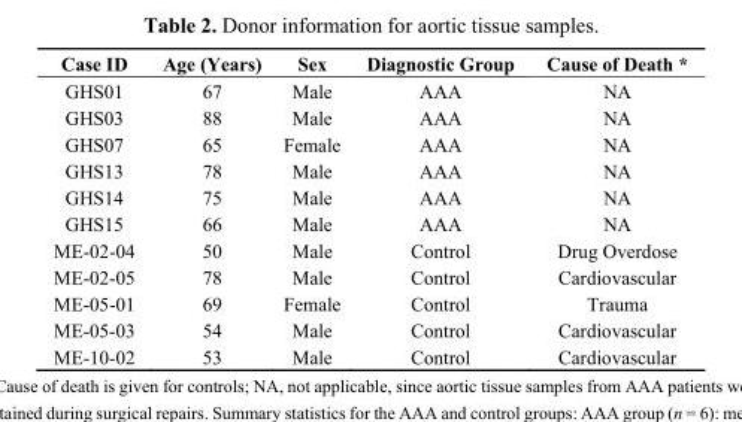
<table><thead><tr><td>Case ID</td><td>Age (Years)</td><td>Sex</td><td>Diagnostic Group</td><td>Cause of Death *</td></tr></thead><tbody><tr><td>GHS01</td><td>67</td><td>Male</td><td>AAA</td><td>NA</td></tr><tr><td>GHS03</td><td>88</td><td>Male</td><td>AAA</td><td>NA</td></tr><tr><td>GHS07</td><td>65</td><td>Female</td><td>AAA</td><td>NA</td></tr><tr><td>GHS13</td><td>78</td><td>Male</td><td>AAA</td><td>NA</td></tr><tr><td>GHS14</td><td>75</td><td>Male</td><td>AAA</td><td>NA</td></tr><tr><td>GHS15</td><td>66</td><td>Male</td><td>AAA</td><td>NA</td></tr><tr><td>ME-02-04</td><td>50</td><td>Male</td><td>Control</td><td>Drug Overdose</td></tr><tr><td>ME-02-05</td><td>78</td><td>Male</td><td>Control</td><td>Cardiovascular</td></tr><tr><td>ME-05-01</td><td>69</td><td>Female</td><td>Control</td><td>Trauma</td></tr><tr><td>ME-05-03</td><td>54</td><td>Male</td><td>Control</td><td>Cardiovascular</td></tr><tr><td>ME-10-02</td><td>53</td><td>Male</td><td>Control</td><td>Cardiovascular</td></tr></tbody></table>